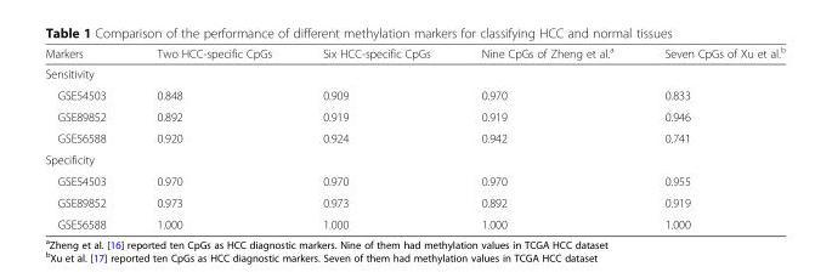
<table><thead><tr><td>Markers</td><td>Two HCC-specific CpGs</td><td>Six HCC-specific CpGs</td><td>Nine CpGs of Zheng et al.<sup>a</sup></td><td>Seven CpGs of Xu et al.<sup>b</sup></td></tr></thead><tbody><tr><td colspan="5">Sensitivity</td></tr><tr><td>GSE54503</td><td>0.848</td><td>0.909</td><td>0.970</td><td>0.833</td></tr><tr><td>GSE89852</td><td>0.892</td><td>0.919</td><td>0.919</td><td>0.946</td></tr><tr><td>GSE56588</td><td>0.920</td><td>0.924</td><td>0.942</td><td>0.741</td></tr><tr><td colspan="5">Specificity</td></tr><tr><td>GSE54503</td><td>0.970</td><td>0.970</td><td>0.970</td><td>0.955</td></tr><tr><td>GSE89852</td><td>0.973</td><td>0.973</td><td>0.892</td><td>0.919</td></tr><tr><td>GSE56588</td><td>1.000</td><td>1.000</td><td>1.000</td><td>1.000</td></tr></tbody></table>